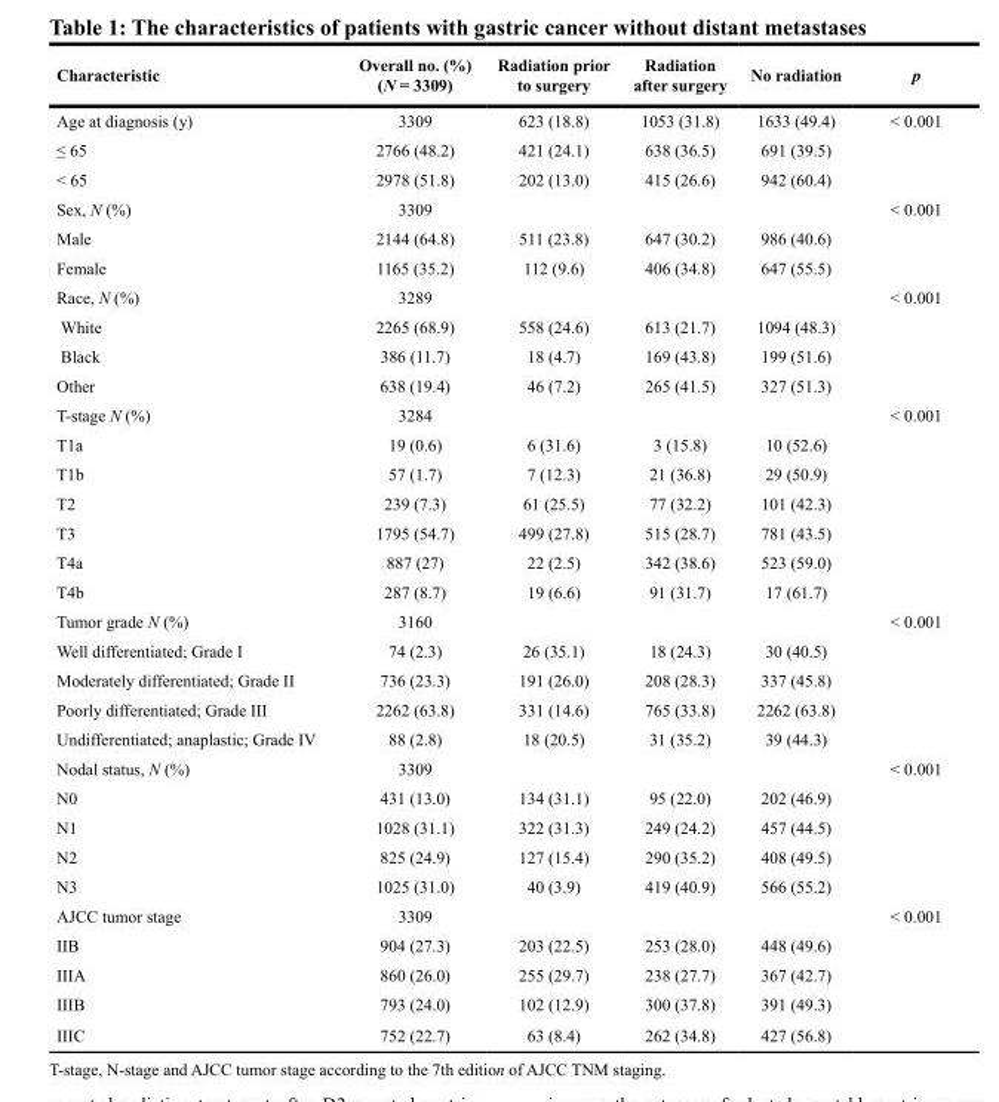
<table><thead><tr><td>Characteristic</td><td>Overall no. (%) (N = 3309)</td><td>Radiation prior to surgery</td><td>Radiation after surgery</td><td>No radiation</td><td>p</td></tr></thead><tbody><tr><td>Age at diagnosis (y)</td><td>3309</td><td>623 (18.8)</td><td>1053 (31.8)</td><td>1633 (49.4)</td><td>&lt; 0.001</td></tr><tr><td>≤ 65</td><td>2766 (48.2)</td><td>421 (24.1)</td><td>638 (36.5)</td><td>691 (39.5)</td><td></td></tr><tr><td>&lt; 65</td><td>2978 (51.8)</td><td>202 (13.0)</td><td>415 (26.6)</td><td>942 (60.4)</td><td></td></tr><tr><td>Sex, N (%)</td><td>3309</td><td></td><td></td><td></td><td>&lt; 0.001</td></tr><tr><td>Male</td><td>2144 (64.8)</td><td>511 (23.8)</td><td>647 (30.2)</td><td>986 (40.6)</td><td></td></tr><tr><td>Female</td><td>1165 (35.2)</td><td>112 (9.6)</td><td>406 (34.8)</td><td>647 (55.5)</td><td></td></tr><tr><td>Race, N (%)</td><td>3289</td><td></td><td></td><td></td><td>&lt; 0.001</td></tr><tr><td>White</td><td>2265 (68.9)</td><td>558 (24.6)</td><td>613 (21.7)</td><td>1094 (48.3)</td><td></td></tr><tr><td>Black</td><td>386 (11.7)</td><td>18 (4.7)</td><td>169 (43.8)</td><td>199 (51.6)</td><td></td></tr><tr><td>Other</td><td>638 (19.4)</td><td>46 (7.2)</td><td>265 (41.5)</td><td>327 (51.3)</td><td></td></tr><tr><td>T-stage N (%)</td><td>3284</td><td></td><td></td><td></td><td>&lt; 0.001</td></tr><tr><td>T1a</td><td>19 (0.6)</td><td>6 (31.6)</td><td>3 (15.8)</td><td>10 (52.6)</td><td></td></tr><tr><td>T1b</td><td>57 (1.7)</td><td>7 (12.3)</td><td>21 (36.8)</td><td>29 (50.9)</td><td></td></tr><tr><td>T2</td><td>239 (7.3)</td><td>61 (25.5)</td><td>77 (32.2)</td><td>101 (42.3)</td><td></td></tr><tr><td>T3</td><td>1795 (54.7)</td><td>499 (27.8)</td><td>515 (28.7)</td><td>781 (43.5)</td><td></td></tr><tr><td>T4a</td><td>887 (27)</td><td>22 (2.5)</td><td>342 (38.6)</td><td>523 (59.0)</td><td></td></tr><tr><td>T4b</td><td>287 (8.7)</td><td>19 (6.6)</td><td>91 (31.7)</td><td>17 (61.7)</td><td></td></tr><tr><td>Tumor grade N (%)</td><td>3160</td><td></td><td></td><td></td><td>&lt; 0.001</td></tr><tr><td>Well differentiated; Grade I</td><td>74 (2.3)</td><td>26 (35.1)</td><td>18 (24.3)</td><td>30 (40.5)</td><td></td></tr><tr><td>Moderately differentiated; Grade II</td><td>736 (23.3)</td><td>191 (26.0)</td><td>208 (28.3)</td><td>337 (45.8)</td><td></td></tr><tr><td>Poorly differentiated; Grade III</td><td>2262 (63.8)</td><td>331 (14.6)</td><td>765 (33.8)</td><td>2262 (63.8)</td><td></td></tr><tr><td>Undifferentiated; anaplastic; Grade IV</td><td>88 (2.8)</td><td>18 (20.5)</td><td>31 (35.2)</td><td>39 (44.3)</td><td></td></tr><tr><td>Nodal status, N (%)</td><td>3309</td><td></td><td></td><td></td><td>&lt; 0.001</td></tr><tr><td>N0</td><td>431 (13.0)</td><td>134 (31.1)</td><td>95 (22.0)</td><td>202 (46.9)</td><td></td></tr><tr><td>N1</td><td>1028 (31.1)</td><td>322 (31.3)</td><td>249 (24.2)</td><td>457 (44.5)</td><td></td></tr><tr><td>N2</td><td>825 (24.9)</td><td>127 (15.4)</td><td>290 (35.2)</td><td>408 (49.5)</td><td></td></tr><tr><td>N3</td><td>1025 (31.0)</td><td>40 (3.9)</td><td>419 (40.9)</td><td>566 (55.2)</td><td></td></tr><tr><td>AJCC tumor stage</td><td>3309</td><td></td><td></td><td></td><td>&lt; 0.001</td></tr><tr><td>IIB</td><td>904 (27.3)</td><td>203 (22.5)</td><td>253 (28.0)</td><td>448 (49.6)</td><td></td></tr><tr><td>IIIA</td><td>860 (26.0)</td><td>255 (29.7)</td><td>238 (27.7)</td><td>367 (42.7)</td><td></td></tr><tr><td>IIIB</td><td>793 (24.0)</td><td>102 (12.9)</td><td>300 (37.8)</td><td>391 (49.3)</td><td></td></tr><tr><td>IIIC</td><td>752 (22.7)</td><td>63 (8.4)</td><td>262 (34.8)</td><td>427 (56.8)</td><td></td></tr></tbody></table>